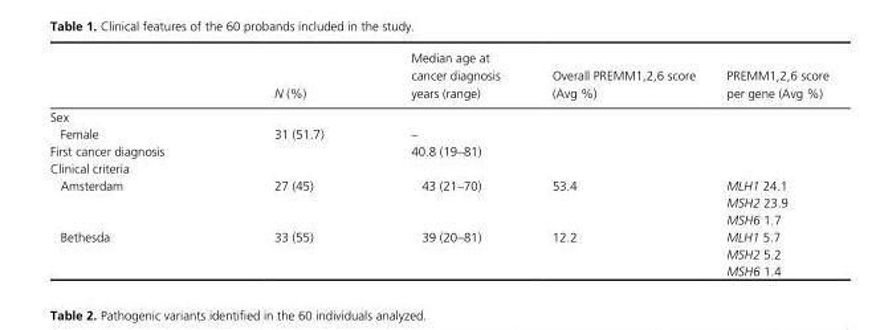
<table><thead><tr><td></td><td>N (%)</td><td>Median age at cancer diagnosis years (range)</td><td>Overall PREMM1,2,6 score (Avg %)</td><td>PREMM1,2,6 score per gene (Avg %)</td></tr></thead><tbody><tr><td colspan="5">Sex</td></tr><tr><td>Female</td><td>31 (51.7)</td><td>–</td><td></td><td></td></tr><tr><td>First cancer diagnosis</td><td></td><td>40.8 (19–81)</td><td></td><td></td></tr><tr><td colspan="5">Clinical criteria</td></tr><tr><td rowspan="3">Amsterdam</td><td rowspan="3">27 (45)</td><td rowspan="3">43 (21–70)</td><td rowspan="3">53.4</td><td>MLH1 24.1</td></tr><tr><td>MSH2 23.9</td></tr><tr><td>MSH6 1.7</td></tr><tr><td rowspan="3">Bethesda</td><td rowspan="3">33 (55)</td><td rowspan="3">39 (20–81)</td><td rowspan="3">12.2</td><td>MLH1 5.7</td></tr><tr><td>MSH2 5.2</td></tr><tr><td>MSH6 1.4</td></tr></tbody></table>